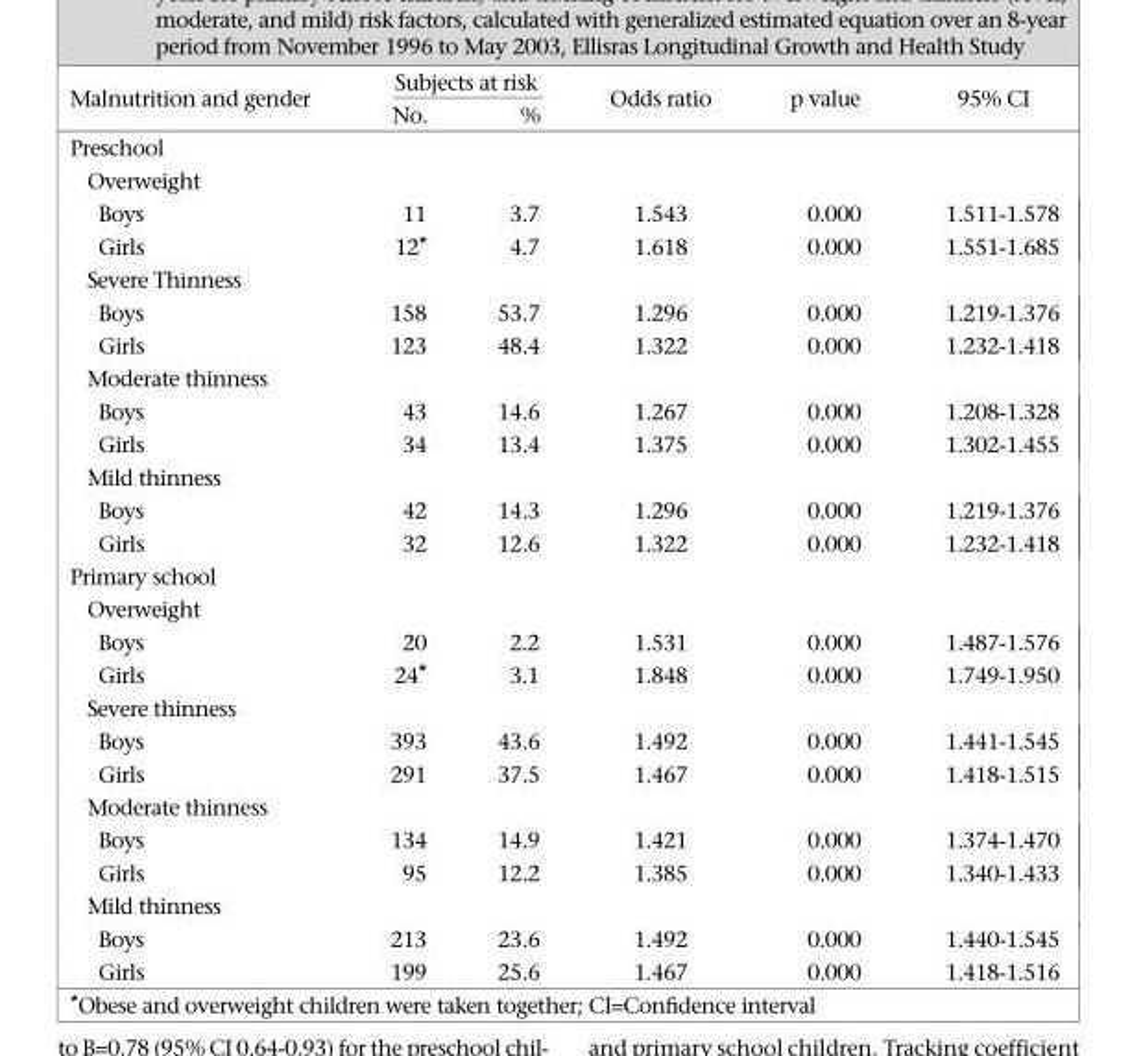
<table><thead><tr><td rowspan="2">Malnutrition and gender</td><td colspan="2">Subjects at risk</td><td rowspan="2">Odds ratio</td><td rowspan="2">p value</td><td rowspan="2">95% CI</td></tr><tr><td>No.</td><td>%</td></tr></thead><tbody><tr><td colspan="6">Preschool</td></tr><tr><td colspan="6">Overweight</td></tr><tr><td>Boys</td><td>11</td><td>3.7</td><td>1.543</td><td>0.000</td><td>1.511-1.578</td></tr><tr><td>Girls</td><td>12*</td><td>4.7</td><td>1.618</td><td>0.000</td><td>1.551-1.685</td></tr><tr><td colspan="6">Severe Thinness</td></tr><tr><td>Boys</td><td>158</td><td>53.7</td><td>1.296</td><td>0.000</td><td>1.219-1.376</td></tr><tr><td>Girls</td><td>123</td><td>48.4</td><td>1.322</td><td>0.000</td><td>1.232-1.418</td></tr><tr><td colspan="6">Moderate thinness</td></tr><tr><td>Boys</td><td>43</td><td>14.6</td><td>1.267</td><td>0.000</td><td>1.208-1.328</td></tr><tr><td>Girls</td><td>34</td><td>13.4</td><td>1.375</td><td>0.000</td><td>1.302-1.455</td></tr><tr><td colspan="6">Mild thinness</td></tr><tr><td>Boys</td><td>42</td><td>14.3</td><td>1.296</td><td>0.000</td><td>1.219-1.376</td></tr><tr><td>Girls</td><td>32</td><td>12.6</td><td>1.322</td><td>0.000</td><td>1.232-1.418</td></tr><tr><td colspan="6">Primary school</td></tr><tr><td colspan="6">Overweight</td></tr><tr><td>Boys</td><td>20</td><td>2.2</td><td>1.531</td><td>0.000</td><td>1.487-1.576</td></tr><tr><td>Girls</td><td>24*</td><td>3.1</td><td>1.848</td><td>0.000</td><td>1.749-1.950</td></tr><tr><td colspan="6">Severe thinness</td></tr><tr><td>Boys</td><td>393</td><td>43.6</td><td>1.492</td><td>0.000</td><td>1.441-1.545</td></tr><tr><td>Girls</td><td>291</td><td>37.5</td><td>1.467</td><td>0.000</td><td>1.418-1.515</td></tr><tr><td colspan="6">Moderate thinness</td></tr><tr><td>Boys</td><td>134</td><td>14.9</td><td>1.421</td><td>0.000</td><td>1.374-1.470</td></tr><tr><td>Girls</td><td>95</td><td>12.2</td><td>1.385</td><td>0.000</td><td>1.340-1.433</td></tr><tr><td colspan="6">Mild thinness</td></tr><tr><td>Boys</td><td>213</td><td>23.6</td><td>1.492</td><td>0.000</td><td>1.440-1.545</td></tr><tr><td>Girls</td><td>199</td><td>25.6</td><td>1.467</td><td>0.000</td><td>1.418-1.516</td></tr></tbody></table>